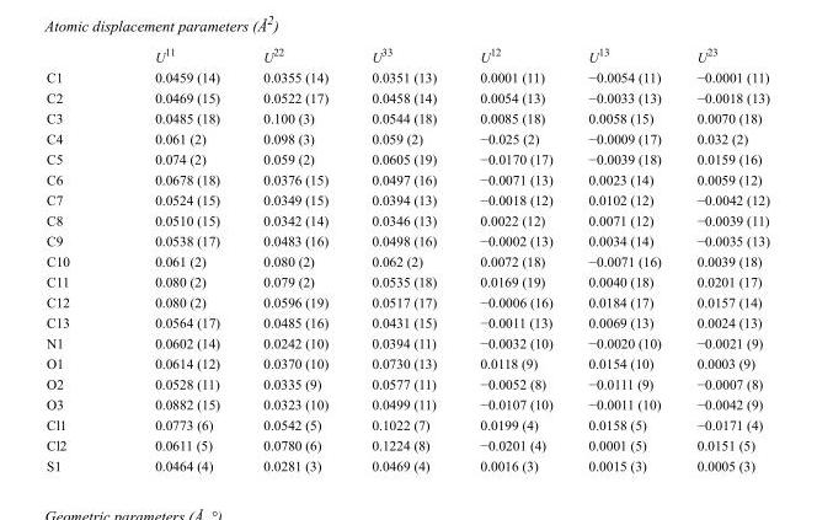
<table><thead><tr><td></td><td>U<sup>11</sup></td><td>U<sup>22</sup></td><td>U<sup>33</sup></td><td>U<sup>12</sup></td><td>U<sup>13</sup></td><td>U<sup>23</sup></td></tr></thead><tbody><tr><td>C1</td><td>0.0459 (14)</td><td>0.0355 (14)</td><td>0.0351 (13)</td><td>0.0001 (11)</td><td>−0.0054 (11)</td><td>−0.0001 (11)</td></tr><tr><td>C2</td><td>0.0469 (15)</td><td>0.0522 (17)</td><td>0.0458 (14)</td><td>0.0054 (13)</td><td>−0.0033 (13)</td><td>−0.0018 (13)</td></tr><tr><td>C3</td><td>0.0485 (18)</td><td>0.100 (3)</td><td>0.0544 (18)</td><td>0.0085 (18)</td><td>0.0058 (15)</td><td>0.0070 (18)</td></tr><tr><td>C4</td><td>0.061 (2)</td><td>0.098 (3)</td><td>0.059 (2)</td><td>−0.025 (2)</td><td>−0.0009 (17)</td><td>0.032 (2)</td></tr><tr><td>C5</td><td>0.074 (2)</td><td>0.059 (2)</td><td>0.0605 (19)</td><td>−0.0170 (17)</td><td>−0.0039 (18)</td><td>0.0159 (16)</td></tr><tr><td>C6</td><td>0.0678 (18)</td><td>0.0376 (15)</td><td>0.0497 (16)</td><td>−0.0071 (13)</td><td>0.0023 (14)</td><td>0.0059 (12)</td></tr><tr><td>C7</td><td>0.0524 (15)</td><td>0.0349 (15)</td><td>0.0394 (13)</td><td>−0.0018 (12)</td><td>0.0102 (12)</td><td>−0.0042 (12)</td></tr><tr><td>C8</td><td>0.0510 (15)</td><td>0.0342 (14)</td><td>0.0346 (13)</td><td>0.0022 (12)</td><td>0.0071 (12)</td><td>−0.0039 (11)</td></tr><tr><td>C9</td><td>0.0538 (17)</td><td>0.0483 (16)</td><td>0.0498 (16)</td><td>−0.0002 (13)</td><td>0.0034 (14)</td><td>−0.0035 (13)</td></tr><tr><td>C10</td><td>0.061 (2)</td><td>0.080 (2)</td><td>0.062 (2)</td><td>0.0072 (18)</td><td>−0.0071 (16)</td><td>0.0039 (18)</td></tr><tr><td>C11</td><td>0.080 (2)</td><td>0.079 (2)</td><td>0.0535 (18)</td><td>0.0169 (19)</td><td>0.0040 (18)</td><td>0.0201 (17)</td></tr><tr><td>C12</td><td>0.080 (2)</td><td>0.0596 (19)</td><td>0.0517 (17)</td><td>−0.0006 (16)</td><td>0.0184 (17)</td><td>0.0157 (14)</td></tr><tr><td>C13</td><td>0.0564 (17)</td><td>0.0485 (16)</td><td>0.0431 (15)</td><td>−0.0011 (13)</td><td>0.0069 (13)</td><td>0.0024 (13)</td></tr><tr><td>N1</td><td>0.0602 (14)</td><td>0.0242 (10)</td><td>0.0394 (11)</td><td>−0.0032 (10)</td><td>−0.0020 (10)</td><td>−0.0021 (9)</td></tr><tr><td>O1</td><td>0.0614 (12)</td><td>0.0370 (10)</td><td>0.0730 (13)</td><td>0.0118 (9)</td><td>0.0154 (10)</td><td>0.0003 (9)</td></tr><tr><td>O2</td><td>0.0528 (11)</td><td>0.0335 (9)</td><td>0.0577 (11)</td><td>−0.0052 (8)</td><td>−0.0111 (9)</td><td>−0.0007 (8)</td></tr><tr><td>O3</td><td>0.0882 (15)</td><td>0.0323 (10)</td><td>0.0499 (11)</td><td>−0.0107 (10)</td><td>−0.0011 (10)</td><td>−0.0042 (9)</td></tr><tr><td>Cl1</td><td>0.0773 (6)</td><td>0.0542 (5)</td><td>0.1022 (7)</td><td>0.0199 (4)</td><td>0.0158 (5)</td><td>−0.0171 (4)</td></tr><tr><td>Cl2</td><td>0.0611 (5)</td><td>0.0780 (6)</td><td>0.1224 (8)</td><td>−0.0201 (4)</td><td>0.0001 (5)</td><td>0.0151 (5)</td></tr><tr><td>S1</td><td>0.0464 (4)</td><td>0.0281 (3)</td><td>0.0469 (4)</td><td>0.0016 (3)</td><td>0.0015 (3)</td><td>0.0005 (3)</td></tr></tbody></table>